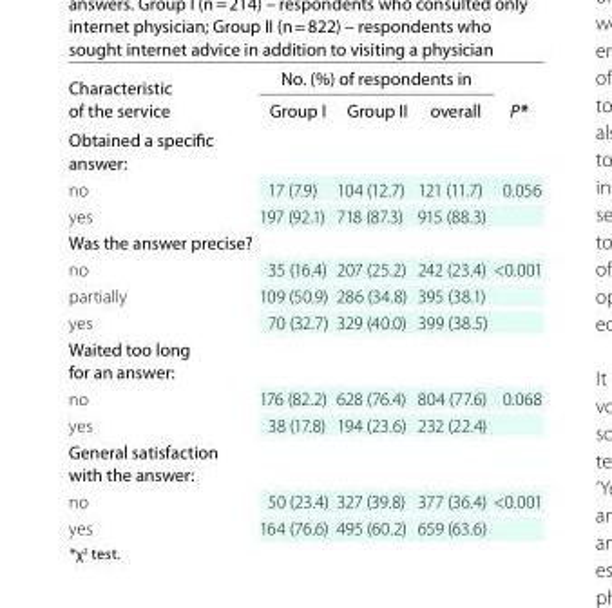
<table><thead><tr><td rowspan="2">Characteristic of the service</td><td colspan="3">No. (%) of respondents in</td><td rowspan="2">P*</td></tr><tr><td>Group I</td><td>Group II</td><td>overall</td></tr></thead><tbody><tr><td colspan="5">obtained a specific answer:</td></tr><tr><td>no</td><td>17 (7.9)</td><td>104 (12.7)</td><td>121 (11.7)</td><td>0.056</td></tr><tr><td>yes</td><td>197 (92.1)</td><td>718 (87.3)</td><td>915 (88.3)</td><td></td></tr><tr><td colspan="5">Was the answer precise?</td></tr><tr><td>no</td><td>35 (16.4)</td><td>207 (25.2)</td><td>242 (23.4)</td><td>&lt;0.001</td></tr><tr><td>partially</td><td>109 (50.9)</td><td>286 (34.8)</td><td>395 (38.1)</td><td></td></tr><tr><td>yes</td><td>70 (32.7)</td><td>329 (40.0)</td><td>399 (38.5)</td><td></td></tr><tr><td colspan="5">Waited too long for an answer:</td></tr><tr><td>no</td><td>176 (82.2)</td><td>628 (76.4)</td><td>804 (77.6)</td><td>0.068</td></tr><tr><td>yes</td><td>38 (17.8)</td><td>194 (23.6)</td><td>232 (22.4)</td><td></td></tr><tr><td colspan="5">General satisfaction with the answer:</td></tr><tr><td>no</td><td>50 (23.4)</td><td>327 (39.8)</td><td>377 (36.4)</td><td>&lt;0.001</td></tr><tr><td>yes</td><td>164 (76.6)</td><td>495 (60.2)</td><td>659 (63.6)</td><td></td></tr></tbody></table>